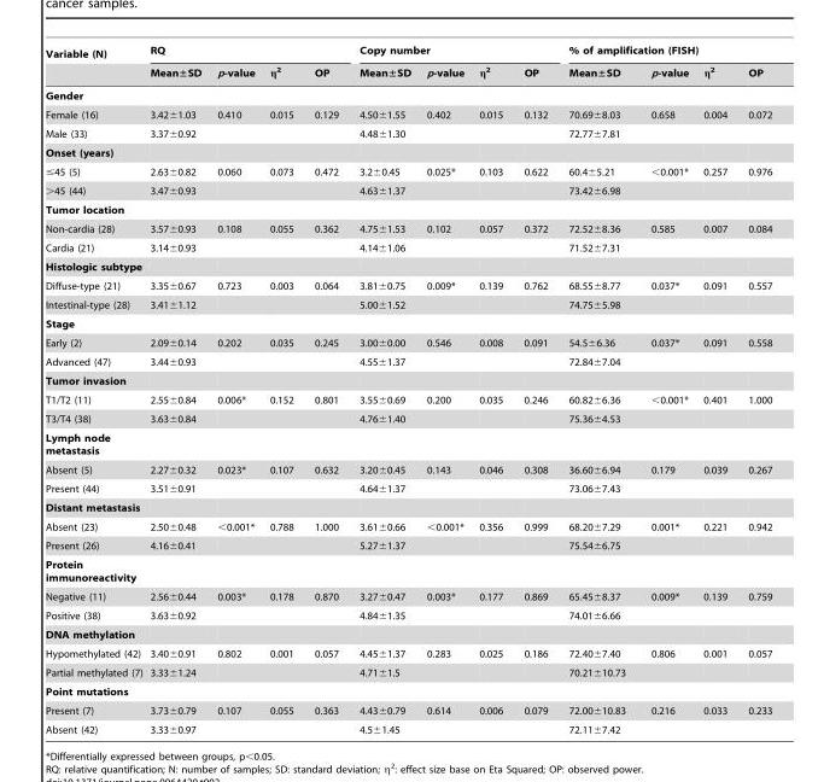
<table><thead><tr><td rowspan="2">Variable (N)</td><td colspan="4">RQ</td><td colspan="4">Copy number</td><td colspan="4">% of amplification (FISH)</td></tr><tr><td>Mean±SD</td><td>p-value</td><td>η<sup>2</sup></td><td>OP</td><td>Mean±SD</td><td>p-value</td><td>η<sup>2</sup></td><td>OP</td><td>Mean±SD</td><td>p-value</td><td>η<sup>2</sup></td><td>OP</td></tr></thead><tbody><tr><td colspan="13">Gender</td></tr><tr><td>Female (16)</td><td>3.42±1.03</td><td>0.410</td><td>0.015</td><td>0.129</td><td>4.50±1.55</td><td>0.402</td><td>0.015</td><td>0.132</td><td>70.69±8.03</td><td>0.658</td><td>0.004</td><td>0.072</td></tr><tr><td>Male (33)</td><td>3.37±0.92</td><td></td><td></td><td></td><td>4.48±1.30</td><td></td><td></td><td></td><td>72.77±7.81</td><td></td><td></td><td></td></tr><tr><td colspan="13">Onset (years)</td></tr><tr><td>≤45 (5)</td><td>2.63±0.82</td><td>0.060</td><td>0.073</td><td>0.472</td><td>3.2±0.45</td><td>0.025*</td><td>0.103</td><td>0.622</td><td>60.4±5.21</td><td>&lt;0.001*</td><td>0.257</td><td>0.976</td></tr><tr><td>&gt;45 (44)</td><td>3.47±0.93</td><td></td><td></td><td></td><td>4.63±1.37</td><td></td><td></td><td></td><td>73.42±6.98</td><td></td><td></td><td></td></tr><tr><td colspan="13">Tumor location</td></tr><tr><td>Non-cardia (28)</td><td>3.57±0.93</td><td>0.108</td><td>0.055</td><td>0.362</td><td>4.75±1.53</td><td>0.102</td><td>0.057</td><td>0.372</td><td>72.52±8.36</td><td>0.585</td><td>0.007</td><td>0.084</td></tr><tr><td>Cardia (21)</td><td>3.14±0.93</td><td></td><td></td><td></td><td>4.14±1.06</td><td></td><td></td><td></td><td>71.52±7.31</td><td></td><td></td><td></td></tr><tr><td colspan="13">Histologic subtype</td></tr><tr><td>Diffuse-type (21)</td><td>3.35±0.67</td><td>0.723</td><td>0.003</td><td>0.064</td><td>3.81±0.75</td><td>0.009*</td><td>0.139</td><td>0.762</td><td>68.55±8.77</td><td>0.037*</td><td>0.091</td><td>0.557</td></tr><tr><td>Intestinal-type (28)</td><td>3.41±1.12</td><td></td><td></td><td></td><td>5.00±1.52</td><td></td><td></td><td></td><td>74.75±5.98</td><td></td><td></td><td></td></tr><tr><td colspan="13">Stage</td></tr><tr><td>Early (2)</td><td>2.09±0.14</td><td>0.202</td><td>0.035</td><td>0.245</td><td>3.00±0.00</td><td>0.546</td><td>0.008</td><td>0.091</td><td>54.5±6.36</td><td>0.037*</td><td>0.091</td><td>0.558</td></tr><tr><td>Advanced (47)</td><td>3.44±0.93</td><td></td><td></td><td></td><td>4.55±1.37</td><td></td><td></td><td></td><td>72.84±7.04</td><td></td><td></td><td></td></tr><tr><td colspan="13">Tumor invasion</td></tr><tr><td>T1/T2 (11)</td><td>2.55±0.84</td><td>0.006*</td><td>0.152</td><td>0.801</td><td>3.55±0.69</td><td>0.200</td><td>0.035</td><td>0.246</td><td>60.82±6.36</td><td>&lt;0.001*</td><td>0.401</td><td>1.000</td></tr><tr><td>T3/T4 (38)</td><td>3.63±0.84</td><td></td><td></td><td></td><td>4.76±1.40</td><td></td><td></td><td></td><td>75.36±4.53</td><td></td><td></td><td></td></tr><tr><td colspan="13">Lymph node metastasis</td></tr><tr><td>Absent (5)</td><td>2.27±0.32</td><td>0.023*</td><td>0.107</td><td>0.632</td><td>3.20±0.45</td><td>0.143</td><td>0.046</td><td>0.308</td><td>36.60±6.94</td><td>0.179</td><td>0.039</td><td>0.267</td></tr><tr><td>Present (44)</td><td>3.51±0.91</td><td></td><td></td><td></td><td>4.64±1.37</td><td></td><td></td><td></td><td>73.06±7.43</td><td></td><td></td><td></td></tr><tr><td colspan="13">Distant metastasis</td></tr><tr><td>Absent (23)</td><td>2.50±0.48</td><td>&lt;0.001*</td><td>0.788</td><td>1.000</td><td>3.61±0.66</td><td>&lt;0.001*</td><td>0.356</td><td>0.999</td><td>68.20±7.29</td><td>0.001*</td><td>0.221</td><td>0.942</td></tr><tr><td>Present (26)</td><td>4.16±0.41</td><td></td><td></td><td></td><td>5.27±1.37</td><td></td><td></td><td></td><td>75.54±6.75</td><td></td><td></td><td></td></tr><tr><td colspan="13">Protein immunoreactivity</td></tr><tr><td>Negative (11)</td><td>2.56±0.44</td><td>0.003*</td><td>0.178</td><td>0.870</td><td>3.27±0.47</td><td>0.003*</td><td>0.177</td><td>0.869</td><td>65.45±8.37</td><td>0.009*</td><td>0.139</td><td>0.759</td></tr><tr><td>Positive (38)</td><td>3.63±0.92</td><td></td><td></td><td></td><td>4.84±1.35</td><td></td><td></td><td></td><td>74.01±6.66</td><td></td><td></td><td></td></tr><tr><td colspan="13">DNA methylation</td></tr><tr><td>Hypomethylated (42)</td><td>3.40±0.91</td><td>0.802</td><td>0.001</td><td>0.057</td><td>4.45±1.37</td><td>0.283</td><td>0.025</td><td>0.186</td><td>72.40±7.40</td><td>0.806</td><td>0.001</td><td>0.057</td></tr><tr><td>Partial methylated (7)</td><td>3.33±1.24</td><td></td><td></td><td></td><td>4.71±1.5</td><td></td><td></td><td></td><td>70.21±10.73</td><td></td><td></td><td></td></tr><tr><td colspan="13">Point mutations</td></tr><tr><td>Present (7)</td><td>3.73±0.79</td><td>0.107</td><td>0.055</td><td>0.363</td><td>4.43±0.79</td><td>0.614</td><td>0.006</td><td>0.079</td><td>72.00±10.83</td><td>0.216</td><td>0.033</td><td>0.233</td></tr><tr><td>Absent (42)</td><td>3.33±0.97</td><td></td><td></td><td></td><td>4.5±1.45</td><td></td><td></td><td></td><td>72.11±7.42</td><td></td><td></td><td></td></tr></tbody></table>